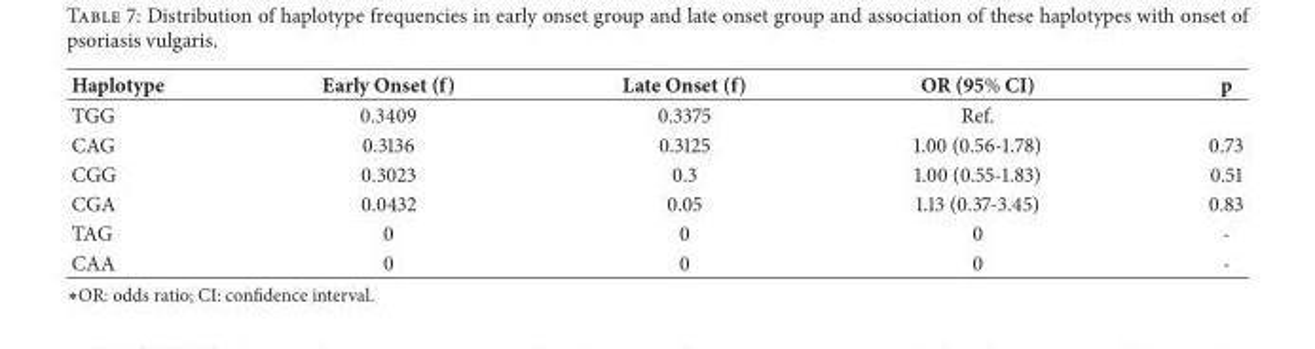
<table><thead><tr><td>Haplotype</td><td>Early Onset (f)</td><td>Late Onset (f)</td><td>OR (95% CI)</td><td>p</td></tr></thead><tbody><tr><td>TGG</td><td>0.3409</td><td>0.3375</td><td>Ref.</td><td></td></tr><tr><td>CAG</td><td>0.3136</td><td>0.3125</td><td>1.00 (0.56-1.78)</td><td>0.73</td></tr><tr><td>CGG</td><td>0.3023</td><td>0.3</td><td>1.00 (0.55-1.83)</td><td>0.51</td></tr><tr><td>CGA</td><td>0.0432</td><td>0.05</td><td>1.13 (0.37-3.45)</td><td>0.83</td></tr><tr><td>TAG</td><td>0</td><td>0</td><td>0</td><td>-</td></tr><tr><td>CAA</td><td>0</td><td>0</td><td>0</td><td>-</td></tr></tbody></table>